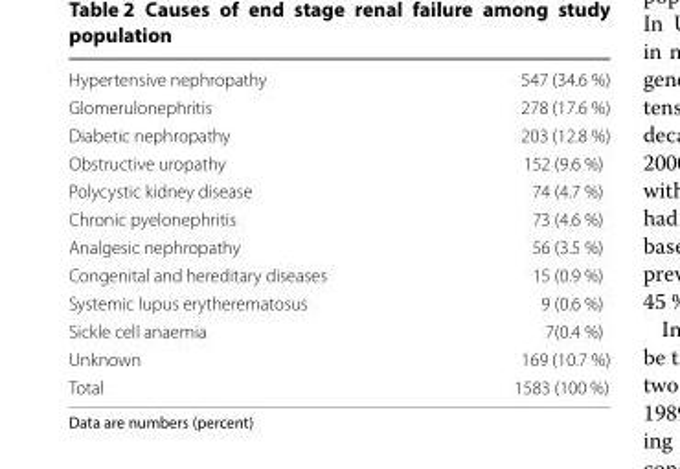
<table><tbody><tr><td>Hypertensive nephropathy</td><td>547 (34.6 %)</td></tr><tr><td>Glomerulonephritis</td><td>278 (17.6 %)</td></tr><tr><td>Diabetic nephropathy</td><td>203 (12.8 %)</td></tr><tr><td>Obstructive uropathy</td><td>152 (9.6 %)</td></tr><tr><td>Polycystic kidney disease</td><td>74 (4.7 %)</td></tr><tr><td>Chronic pyelonephritis</td><td>73 (4.6 %)</td></tr><tr><td>Analgesic nephropathy</td><td>56 (3.5 %)</td></tr><tr><td>Congenital and hereditary diseases</td><td>15 (0.9 %)</td></tr><tr><td>Systemic lupus erytherematosus</td><td>9 (0.6 %)</td></tr><tr><td>Sickle cell anaemia</td><td>7(0.4 %)</td></tr><tr><td>Unknown</td><td>169 (10.7 %)</td></tr><tr><td>Total</td><td>1583 (100 %)</td></tr></tbody></table>